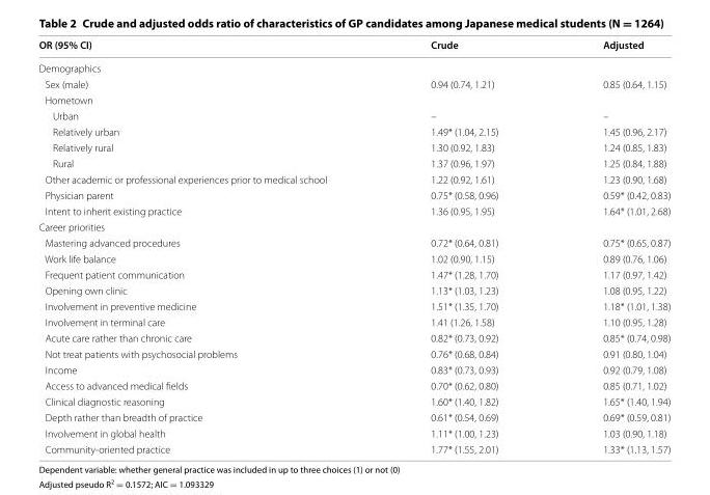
<table><thead><tr><td>OR (95% CI)</td><td>Crude</td><td>Adjusted</td></tr></thead><tbody><tr><td colspan="3">Demographics</td></tr><tr><td>Sex (male)</td><td>0.94 (0.74, 1.21)</td><td>0.85 (0.64, 1.15)</td></tr><tr><td colspan="3">Hometown</td></tr><tr><td>Urban</td><td>–</td><td>–</td></tr><tr><td>Relatively urban</td><td>1.49* (1.04, 2.15)</td><td>1.45 (0.96, 2.17)</td></tr><tr><td>Relatively rural</td><td>1.30 (0.92, 1.83)</td><td>1.24 (0.85, 1.83)</td></tr><tr><td>Rural</td><td>1.37 (0.96, 1.97)</td><td>1.25 (0.84, 1.88)</td></tr><tr><td>Other academic or professional experiences prior to medical school</td><td>1.22 (0.92, 1.61)</td><td>1.23 (0.90, 1.68)</td></tr><tr><td>Physician parent</td><td>0.75* (0.58, 0.96)</td><td>0.59* (0.42, 0.83)</td></tr><tr><td>Intent to inherit existing practice</td><td>1.36 (0.95, 1.95)</td><td>1.64* (1.01, 2.68)</td></tr><tr><td colspan="3">Career priorities</td></tr><tr><td>Mastering advanced procedures</td><td>0.72* (0.64, 0.81)</td><td>0.75* (0.65, 0.87)</td></tr><tr><td>Work life balance</td><td>1.02 (0.90, 1.15)</td><td>0.89 (0.76, 1.06)</td></tr><tr><td>Frequent patient communication</td><td>1.47* (1.28, 1.70)</td><td>1.17 (0.97, 1.42)</td></tr><tr><td>Opening own clinic</td><td>1.13* (1.03, 1.23)</td><td>1.08 (0.95, 1.22)</td></tr><tr><td>Involvement in preventive medicine</td><td>1.51* (1.35, 1.70)</td><td>1.18* (1.01, 1.38)</td></tr><tr><td>Involvement in terminal care</td><td>1.41 (1.26, 1.58)</td><td>1.10 (0.95, 1.28)</td></tr><tr><td>Acute care rather than chronic care</td><td>0.82* (0.73, 0.92)</td><td>0.85* (0.74, 0.98)</td></tr><tr><td>Not treat patients with psychosocial problems</td><td>0.76* (0.68, 0.84)</td><td>0.91 (0.80, 1.04)</td></tr><tr><td>Income</td><td>0.83* (0.73, 0.93)</td><td>0.92 (0.79, 1.08)</td></tr><tr><td>Access to advanced medical fields</td><td>0.70* (0.62, 0.80)</td><td>0.85 (0.71, 1.02)</td></tr><tr><td>Clinical diagnostic reasoning</td><td>1.60* (1.40, 1.82)</td><td>1.65* (1.40, 1.94)</td></tr><tr><td>Depth rather than breadth of practice</td><td>0.61* (0.54, 0.69)</td><td>0.69* (0.59, 0.81)</td></tr><tr><td>Involvement in global health</td><td>1.11* (1.00, 1.23)</td><td>1.03 (0.90, 1.18)</td></tr><tr><td>Community-oriented practice</td><td>1.77* (1.55, 2.01)</td><td>1.33* (1.13, 1.57)</td></tr></tbody></table>